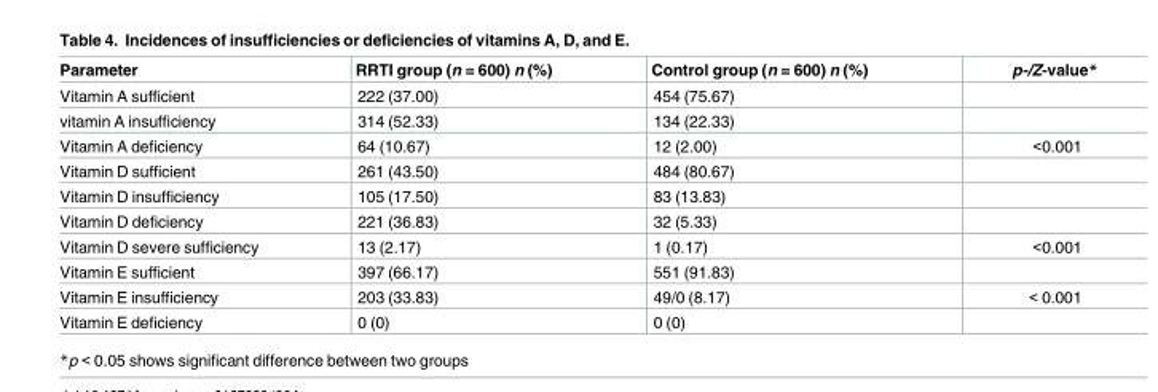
<table><thead><tr><td>Parameter</td><td>RRTI group (n = 600) n (%)</td><td>Control group (n = 600) n (%)</td><td>p-/Z-value*</td></tr></thead><tbody><tr><td>Vitamin A sufficient</td><td>222 (37.00)</td><td>454 (75.67)</td><td></td></tr><tr><td>vitamin A insufficiency</td><td>314 (52.33)</td><td>134 (22.33)</td><td></td></tr><tr><td>Vitamin A deficiency</td><td>64 (10.67)</td><td>12 (2.00)</td><td>&lt;0.001</td></tr><tr><td>Vitamin D sufficient</td><td>261 (43.50)</td><td>484 (80.67)</td><td></td></tr><tr><td>Vitamin D insufficiency</td><td>105 (17.50)</td><td>83 (13.83)</td><td></td></tr><tr><td>Vitamin D deficiency</td><td>221 (36.83)</td><td>32 (5.33)</td><td></td></tr><tr><td>Vitamin D severe sufficiency</td><td>13 (2.17)</td><td>1 (0.17)</td><td>&lt;0.001</td></tr><tr><td>Vitamin E sufficient</td><td>397 (66.17)</td><td>551 (91.83)</td><td></td></tr><tr><td>Vitamin E insufficiency</td><td>203 (33.83)</td><td>49/0 (8.17)</td><td>&lt; 0.001</td></tr><tr><td>Vitamin E deficiency</td><td>0 (0)</td><td>0 (0)</td><td></td></tr></tbody></table>